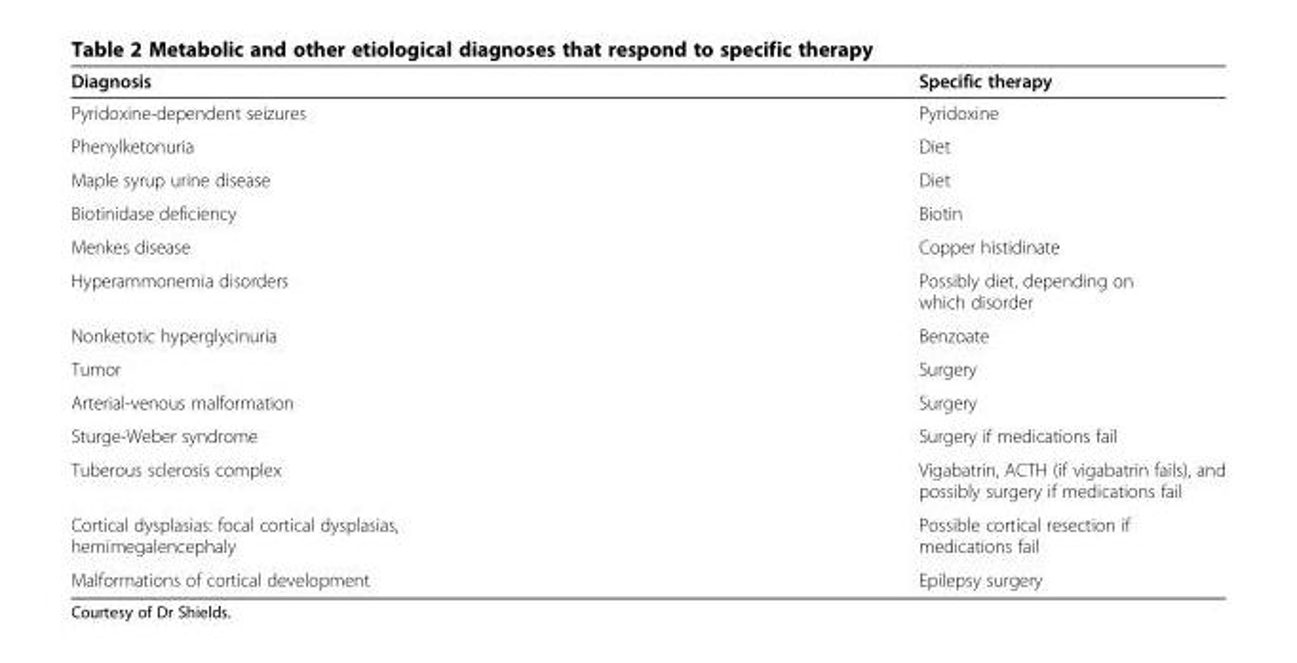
<table><thead><tr><td>Diagnosis</td><td>Specific therapy</td></tr></thead><tbody><tr><td>Pyridoxine-dependent seizures</td><td>Pyridoxine</td></tr><tr><td>Phenylketonuria</td><td>Diet</td></tr><tr><td>Maple syrup urine disease</td><td>Diet</td></tr><tr><td>Biotinidase deficiency</td><td>Biotin</td></tr><tr><td>Menkes disease</td><td>Copper histidinate</td></tr><tr><td>Hyperammonemia disorders</td><td>Possibly diet, depending on which disorder</td></tr><tr><td>Nonketotic hyperglycinuria</td><td>Benzoate</td></tr><tr><td>Tumor</td><td>Surgery</td></tr><tr><td>Arterial-venous malformation</td><td>Surgery</td></tr><tr><td>Sturge-Weber syndrome</td><td>Surgery if medications fail</td></tr><tr><td>Tuberous sclerosis complex</td><td>Vigabatrin, ACTH (if vigabatrin fails), and possibly surgery if medications fail</td></tr><tr><td>Cortical dysplasias: focal cortical dysplasias, hemimegalencephaly</td><td>Possible cortical resection if medications fail</td></tr><tr><td>Malformations of cortical development</td><td>Epilepsy surgery</td></tr></tbody></table>